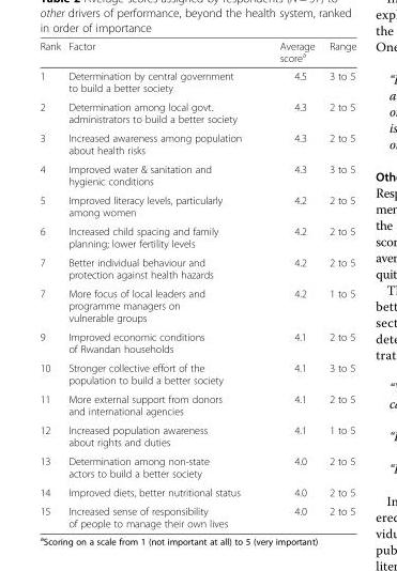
<table><thead><tr><td>Rank</td><td>Factor</td><td>Average score<sup>a</sup></td><td>Range</td></tr></thead><tbody><tr><td>1</td><td>Determination by central government to build a better society</td><td>4.5</td><td>3 to 5</td></tr><tr><td>2</td><td>Determination among local govt. administrators to build a better society</td><td>4.3</td><td>2 to 5</td></tr><tr><td>3</td><td>Increased awareness among population about health risks</td><td>4.3</td><td>2 to 5</td></tr><tr><td>4</td><td>Improved water &amp; sanitation and hygienic conditions</td><td>4.3</td><td>3 to 5</td></tr><tr><td>5</td><td>Improved literacy levels, particularly among women</td><td>4.2</td><td>2 to 5</td></tr><tr><td>6</td><td>Increased child spacing and family planning; lower fertility levels</td><td>4.2</td><td>2 to 5</td></tr><tr><td>7</td><td>Better individual behaviour and protection against health hazards</td><td>4.2</td><td>2 to 5</td></tr><tr><td>7</td><td>More focus of local leaders and programme managers on vulnerable groups</td><td>4.2</td><td>1 to 5</td></tr><tr><td>9</td><td>Improved economic conditions of Rwandan households</td><td>4.1</td><td>2 to 5</td></tr><tr><td>10</td><td>Stronger collective effort of the population to build a better society</td><td>4.1</td><td>3 to 5</td></tr><tr><td>11</td><td>More external support from donors and international agencies</td><td>4.1</td><td>2 to 5</td></tr><tr><td>12</td><td>Increased population awareness about rights and duties</td><td>4.1</td><td>1 to 5</td></tr><tr><td>13</td><td>Determination among non-state actors to build a better society</td><td>4.0</td><td>2 to 5</td></tr><tr><td>14</td><td>Improved diets, better nutritional status</td><td>4.0</td><td>2 to 5</td></tr><tr><td>15</td><td>Increased sense of responsibility of people to manage their own lives</td><td>4.0</td><td>2 to 5</td></tr></tbody></table>